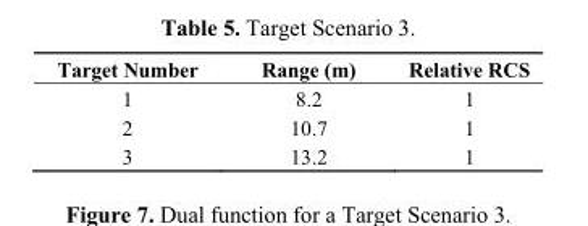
<table><thead><tr><td>Target Number</td><td>Range (m)</td><td>Relative RCS</td></tr></thead><tbody><tr><td>1</td><td>8.2</td><td>1</td></tr><tr><td>2</td><td>10.7</td><td>1</td></tr><tr><td>3</td><td>13.2</td><td>1</td></tr></tbody></table>